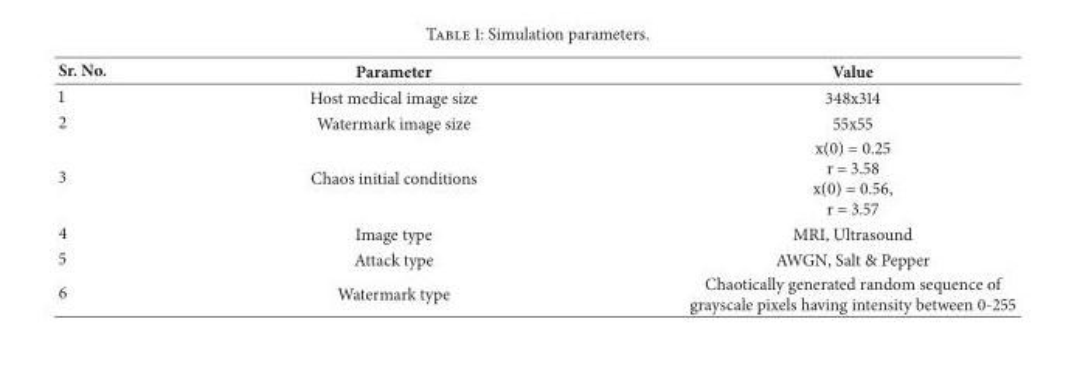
<table><thead><tr><td>Sr. No.</td><td>Parameter</td><td>Value</td></tr></thead><tbody><tr><td>1</td><td>Host medical image size</td><td>348x314</td></tr><tr><td>2</td><td>Watermark image size</td><td>55x55</td></tr><tr><td>3</td><td>Chaos initial conditions</td><td>x(0) = 0.25 r = 3.58 x(0) = 0.56, r = 3.57</td></tr><tr><td>4</td><td>Image type</td><td>MRI, Ultrasound</td></tr><tr><td>5</td><td>Attack type</td><td>AWGN, Salt &amp; Pepper</td></tr><tr><td>6</td><td>Watermark type</td><td>Chaotically generated random sequence of grayscale pixels having intensity between 0-255</td></tr></tbody></table>